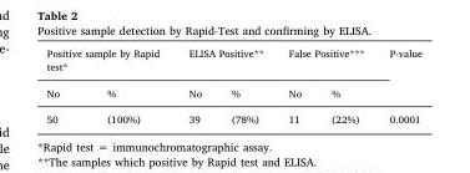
<table><thead><tr><td colspan="2">Positive sample by Rapid test*</td><td colspan="2">ELISA Positive**</td><td colspan="2">False Positive***</td><td rowspan="2">P-value</td></tr><tr><td>No</td><td>%</td><td>No</td><td>%</td><td>No</td><td>%</td></tr></thead><tbody><tr><td>50</td><td>(100%)</td><td>39</td><td>(78%)</td><td>11</td><td>(22%)</td><td>0.0001</td></tr></tbody></table>